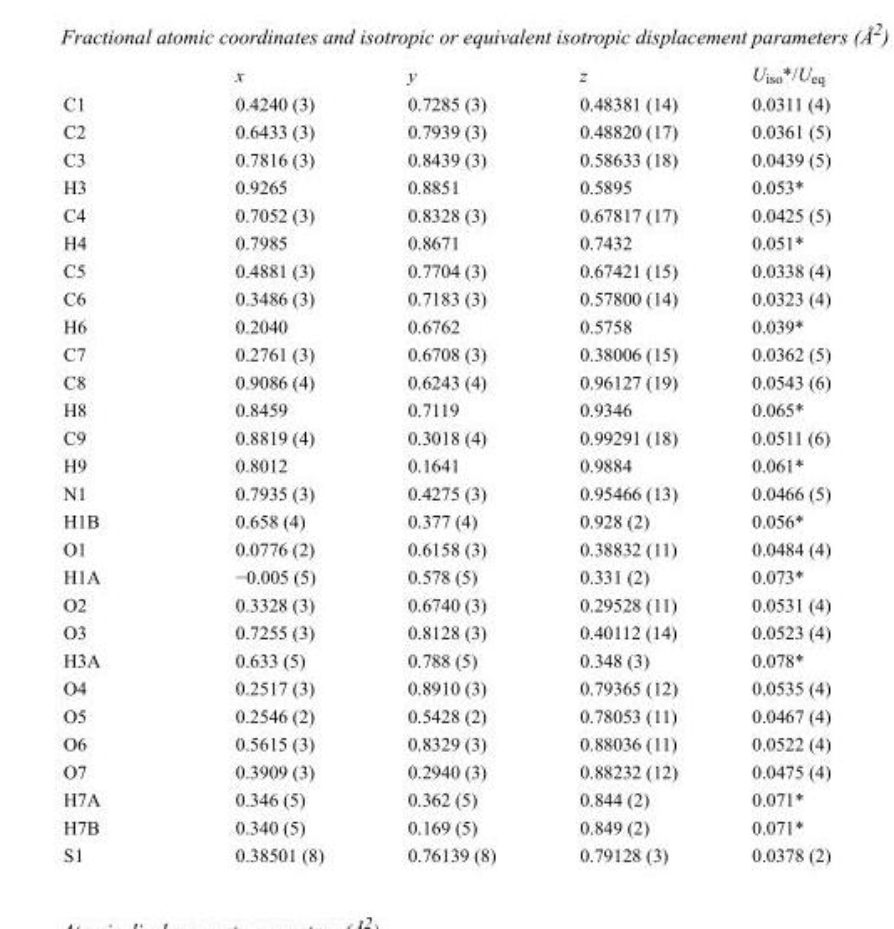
<table><thead><tr><td></td><td>x</td><td>y</td><td>z</td><td>U<sub>iso</sub>*/U<sub>eq</sub></td></tr></thead><tbody><tr><td>C1</td><td>0.4240 (3)</td><td>0.7285 (3)</td><td>0.48381 (14)</td><td>0.0311 (4)</td></tr><tr><td>C2</td><td>0.6433 (3)</td><td>0.7939 (3)</td><td>0.48820 (17)</td><td>0.0361 (5)</td></tr><tr><td>C3</td><td>0.7816 (3)</td><td>0.8439 (3)</td><td>0.58633 (18)</td><td>0.0439 (5)</td></tr><tr><td>H3</td><td>0.9265</td><td>0.8851</td><td>0.5895</td><td>0.053*</td></tr><tr><td>C4</td><td>0.7052 (3)</td><td>0.8328 (3)</td><td>0.67817 (17)</td><td>0.0425 (5)</td></tr><tr><td>H4</td><td>0.7985</td><td>0.8671</td><td>0.7432</td><td>0.051*</td></tr><tr><td>C5</td><td>0.4881 (3)</td><td>0.7704 (3)</td><td>0.67421 (15)</td><td>0.0338 (4)</td></tr><tr><td>C6</td><td>0.3486 (3)</td><td>0.7183 (3)</td><td>0.57800 (14)</td><td>0.0323 (4)</td></tr><tr><td>H6</td><td>0.2040</td><td>0.6762</td><td>0.5758</td><td>0.039*</td></tr><tr><td>C7</td><td>0.2761 (3)</td><td>0.6708 (3)</td><td>0.38006 (15)</td><td>0.0362 (5)</td></tr><tr><td>C8</td><td>0.9086 (4)</td><td>0.6243 (4)</td><td>0.96127 (19)</td><td>0.0543 (6)</td></tr><tr><td>H8</td><td>0.8459</td><td>0.7119</td><td>0.9346</td><td>0.065*</td></tr><tr><td>C9</td><td>0.8819 (4)</td><td>0.3018 (4)</td><td>0.99291 (18)</td><td>0.0511 (6)</td></tr><tr><td>H9</td><td>0.8012</td><td>0.1641</td><td>0.9884</td><td>0.061*</td></tr><tr><td>N1</td><td>0.7935 (3)</td><td>0.4275 (3)</td><td>0.95466 (13)</td><td>0.0466 (5)</td></tr><tr><td>H1B</td><td>0.658 (4)</td><td>0.377 (4)</td><td>0.928 (2)</td><td>0.056*</td></tr><tr><td>O1</td><td>0.0776 (2)</td><td>0.6158 (3)</td><td>0.38832 (11)</td><td>0.0484 (4)</td></tr><tr><td>H1A</td><td>−0.005 (5)</td><td>0.578 (5)</td><td>0.331 (2)</td><td>0.073*</td></tr><tr><td>O2</td><td>0.3328 (3)</td><td>0.6740 (3)</td><td>0.29528 (11)</td><td>0.0531 (4)</td></tr><tr><td>O3</td><td>0.7255 (3)</td><td>0.8128 (3)</td><td>0.40112 (14)</td><td>0.0523 (4)</td></tr><tr><td>H3A</td><td>0.633 (5)</td><td>0.788 (5)</td><td>0.348 (3)</td><td>0.078*</td></tr><tr><td>O4</td><td>0.2517 (3)</td><td>0.8910 (3)</td><td>0.79365 (12)</td><td>0.0535 (4)</td></tr><tr><td>O5</td><td>0.2546 (2)</td><td>0.5428 (2)</td><td>0.78053 (11)</td><td>0.0467 (4)</td></tr><tr><td>O6</td><td>0.5615 (3)</td><td>0.8329 (3)</td><td>0.88036 (11)</td><td>0.0522 (4)</td></tr><tr><td>O7</td><td>0.3909 (3)</td><td>0.2940 (3)</td><td>0.88232 (12)</td><td>0.0475 (4)</td></tr><tr><td>H7A</td><td>0.346 (5)</td><td>0.362 (5)</td><td>0.844 (2)</td><td>0.071*</td></tr><tr><td>H7B</td><td>0.340 (5)</td><td>0.169 (5)</td><td>0.849 (2)</td><td>0.071*</td></tr><tr><td>S1</td><td>0.38501 (8)</td><td>0.76139 (8)</td><td>0.79128 (3)</td><td>0.0378 (2)</td></tr></tbody></table>